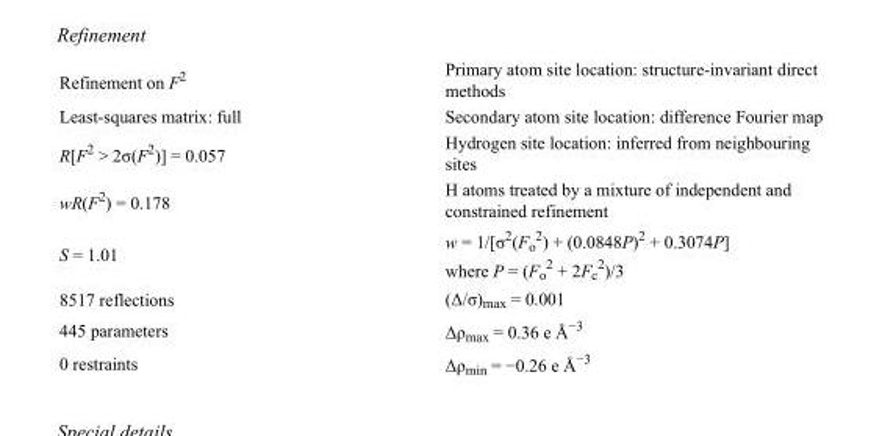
<table><tbody><tr><td>Refinement on F<sup>2</sup></td><td>Primary atom site location: structure-invariant direct methods</td></tr><tr><td>Least-squares matrix: full</td><td>Secondary atom site location: difference Fourier map</td></tr><tr><td>R[F<sup>2</sup> &gt; 2σ(F<sup>2</sup>)] = 0.057</td><td>Hydrogen site location: inferred from neighbouring sites</td></tr><tr><td>wR(F<sup>2</sup>) = 0.178</td><td>H atoms treated by a mixture of independent and constrained refinement</td></tr><tr><td>S = 1.01</td><td>w = 1/[σ<sup>2</sup>(F<sub>o</sub> <sup>2</sup>) + (0.0848P)<sup>2</sup> + 0.3074P] where P = (F<sub>o</sub> <sup>2</sup> + 2F<sub>c</sub> <sup>2</sup>)/3</td></tr><tr><td>8517 reflections</td><td>(Δ/σ)<sub>max</sub> = 0.001</td></tr><tr><td>445 parameters</td><td>Δρ<sub>max</sub> = 0.36 e Å<sup>−3</sup></td></tr><tr><td>0 restraints</td><td>Δρ<sub>min</sub> = −0.26 e Å<sup>−3</sup></td></tr></tbody></table>